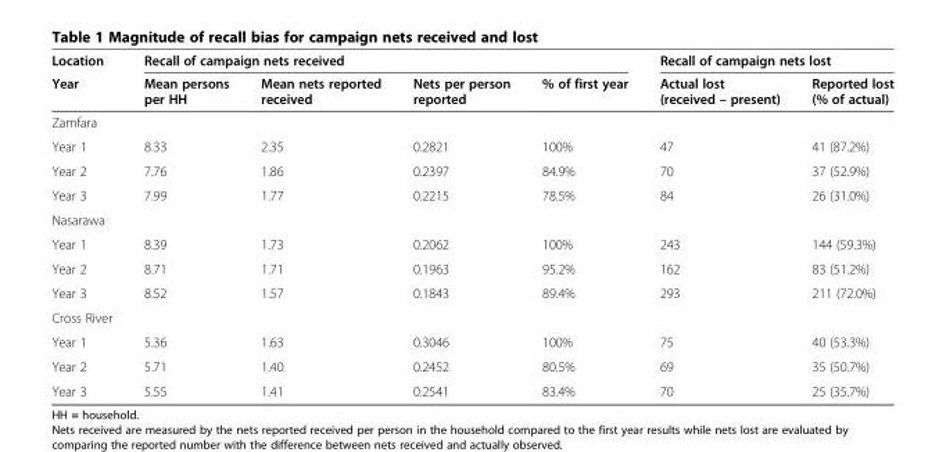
<table><thead><tr><td rowspan="2">Location Year</td><td colspan="4">Recall of campaign nets received</td><td colspan="2">Recall of campaign nets lost</td></tr><tr><td>Mean persons per HH</td><td>Mean nets reported received</td><td>Nets per person reported</td><td>% of first year</td><td>Actual lost (received – present)</td><td>Reported lost (% of actual)</td></tr></thead><tbody><tr><td colspan="7">Zamfara</td></tr><tr><td>Year 1</td><td>8.33</td><td>2.35</td><td>0.2821</td><td>100%</td><td>47</td><td>41 (87.2%)</td></tr><tr><td>Year 2</td><td>7.76</td><td>1.86</td><td>0.2397</td><td>84.9%</td><td>70</td><td>37 (52.9%)</td></tr><tr><td>Year 3</td><td>7.99</td><td>1.77</td><td>0.2215</td><td>78.5%</td><td>84</td><td>26 (31.0%)</td></tr><tr><td colspan="7">Nasarawa</td></tr><tr><td>Year 1</td><td>8.39</td><td>1.73</td><td>0.2062</td><td>100%</td><td>243</td><td>144 (59.3%)</td></tr><tr><td>Year 2</td><td>8.71</td><td>1.71</td><td>0.1963</td><td>95.2%</td><td>162</td><td>83 (51.2%)</td></tr><tr><td>Year 3</td><td>8.52</td><td>1.57</td><td>0.1843</td><td>89.4%</td><td>293</td><td>211 (72.0%)</td></tr><tr><td colspan="7">Cross River</td></tr><tr><td>Year 1</td><td>5.36</td><td>1.63</td><td>0.3046</td><td>100%</td><td>75</td><td>40 (53.3%)</td></tr><tr><td>Year 2</td><td>5.71</td><td>1.40</td><td>0.2452</td><td>80.5%</td><td>69</td><td>35 (50.7%)</td></tr><tr><td>Year 3</td><td>5.55</td><td>1.41</td><td>0.2541</td><td>83.4%</td><td>70</td><td>25 (35.7%)</td></tr></tbody></table>